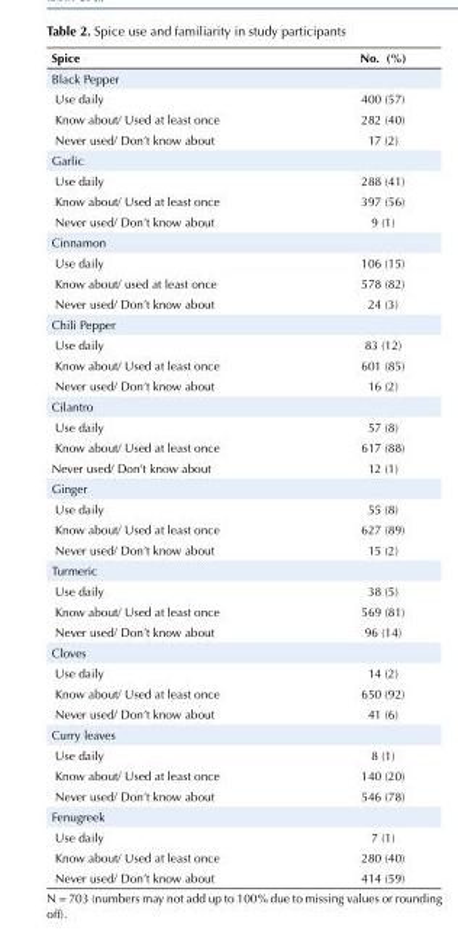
<table><tbody><tr><td>Spice</td><td>No. (%)</td></tr><tr><td colspan="2">Black Pepper</td></tr><tr><td>Use daily</td><td>400 (57)</td></tr><tr><td>Know about/ Used at least once</td><td>282 (40)</td></tr><tr><td>Never used/ Don’t know about</td><td>17 (2)</td></tr><tr><td colspan="2">Garlic</td></tr><tr><td>Use daily</td><td>288 (41)</td></tr><tr><td>Know about/ Used at least once</td><td>397 (56)</td></tr><tr><td>Never used/ Don’t know about</td><td>9 (1)</td></tr><tr><td colspan="2">Cinnamon</td></tr><tr><td>Use daily</td><td>106 (15)</td></tr><tr><td>Know about/ used at least once</td><td>578 (82)</td></tr><tr><td>Never used/ Don’t know about</td><td>24 (3)</td></tr><tr><td colspan="2">Chili Pepper</td></tr><tr><td>Use daily</td><td>83 (12)</td></tr><tr><td>Know about/ Used at least once</td><td>601 (85)</td></tr><tr><td>Never used/ Don’t know about</td><td>16 (2)</td></tr><tr><td colspan="2">Cilantro</td></tr><tr><td>Use daily</td><td>57 (8)</td></tr><tr><td>Know about/ Used at least once</td><td>617 (88)</td></tr><tr><td>Never used/ Don’t know about</td><td>12 (1)</td></tr><tr><td colspan="2">Ginger</td></tr><tr><td>Use daily</td><td>55 (8)</td></tr><tr><td>Know about/ Used at least once</td><td>627 (89)</td></tr><tr><td>Never used/ Don’t know about</td><td>15 (2)</td></tr><tr><td colspan="2">Turmeric</td></tr><tr><td>Use daily</td><td>38 (5)</td></tr><tr><td>Know about/ Used at least once</td><td>569 (81)</td></tr><tr><td>Never used/ Don’t know about</td><td>96 (14)</td></tr><tr><td colspan="2">Cloves</td></tr><tr><td>Use daily</td><td>14 (2)</td></tr><tr><td>Know about/ Used at least once</td><td>650 (92)</td></tr><tr><td>Never used/ Don’t know about</td><td>41 (6)</td></tr><tr><td colspan="2">Curry leaves</td></tr><tr><td>Use daily</td><td>8 (1)</td></tr><tr><td>Know about/ Used at least once</td><td>140 (20)</td></tr><tr><td>Never used/ Don’t know about</td><td>546 (78)</td></tr><tr><td colspan="2">Fenugreek</td></tr><tr><td>Use daily</td><td>7 (1)</td></tr><tr><td>Know about/ Used at least once</td><td>280 (40)</td></tr><tr><td>Never used/ Don’t know about</td><td>414 (59)</td></tr></tbody></table>